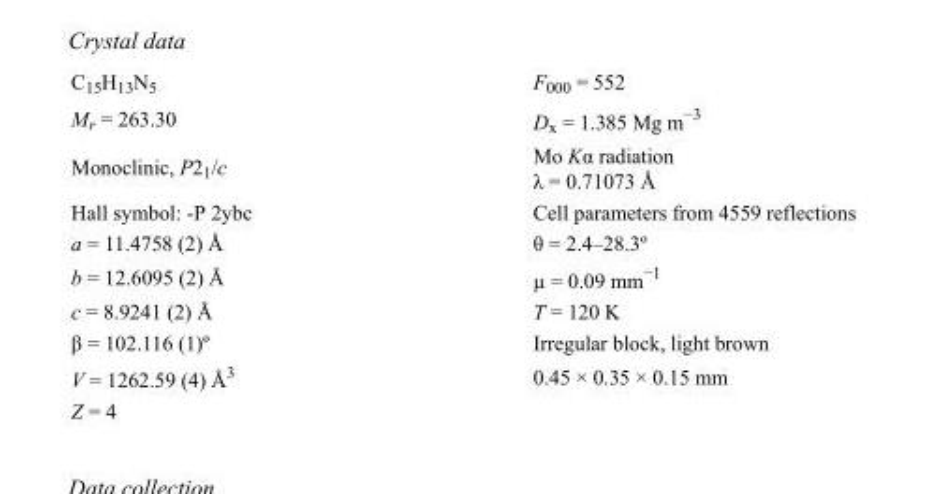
<table><tbody><tr><td>C<sub>15</sub>H<sub>13</sub>N<sub>5</sub></td><td>F000 = 552</td></tr><tr><td>M<sub>r</sub> = 263.30</td><td>D<sub>x</sub> = 1.385 Mg m<sup>−3</sup></td></tr><tr><td>Monoclinic, P2<sub>1</sub>/c</td><td>Mo Kα radiation λ = 0.71073 Å</td></tr><tr><td>Hall symbol: -P 2ybc</td><td>Cell parameters from 4559 reflections</td></tr><tr><td>a = 11.4758 (2) Å</td><td>θ = 2.4–28.3º</td></tr><tr><td>b = 12.6095 (2) Å</td><td>µ = 0.09 mm<sup>−1</sup></td></tr><tr><td>c = 8.9241 (2) Å</td><td>T = 120 K</td></tr><tr><td>β = 102.116 (1)º</td><td>Irregular block, light brown</td></tr><tr><td>V = 1262.59 (4) Å<sup>3</sup></td><td>0.45 × 0.35 × 0.15 mm</td></tr><tr><td>Z = 4</td><td></td></tr></tbody></table>